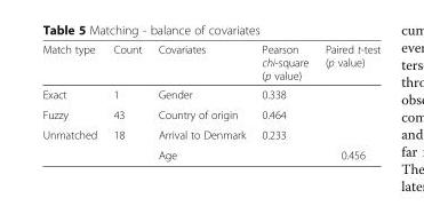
<table><thead><tr><td>Match type</td><td>Count</td><td>Covariates</td><td>Pearson chi-square (p value)</td><td>Paired t-test (p value)</td></tr></thead><tbody><tr><td>Exact</td><td>1</td><td>Gender</td><td>0.338</td><td></td></tr><tr><td>Fuzzy</td><td>43</td><td>Country of origin</td><td>0.464</td><td></td></tr><tr><td rowspan="2">Unmatched</td><td>18</td><td>Arrival to Denmark</td><td>0.233</td><td></td></tr><tr><td></td><td>Age</td><td></td><td>0.456</td></tr></tbody></table>